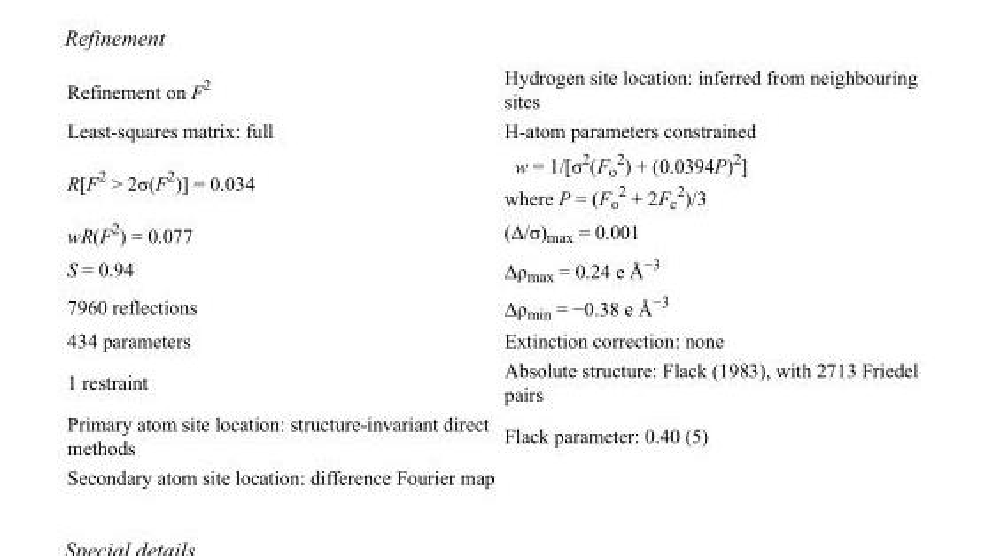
<table><tbody><tr><td>Refinement on F<sup>2</sup></td><td>Hydrogen site location: inferred from neighbouring sites</td></tr><tr><td>Least-squares matrix: full</td><td>H-atom parameters constrained</td></tr><tr><td>R[F<sup>2</sup> &gt; 2σ(F<sup>2</sup>)] = 0.034</td><td>w = 1/[σ<sup>2</sup>(F<sub>o</sub> <sup>2</sup>) + (0.0394P)<sup>2</sup>] where P = (F<sub>o</sub> <sup>2</sup> + 2F<sub>c</sub> <sup>2</sup>)/3</td></tr><tr><td>wR(F<sup>2</sup>) = 0.077</td><td>(Δ/σ)<sub>max</sub> = 0.001</td></tr><tr><td>S = 0.94</td><td>Δρ<sub>max</sub> = 0.24 e Å<sup>−3</sup></td></tr><tr><td>7960 reflections</td><td>Δρ<sub>min</sub> = −0.38 e Å<sup>−3</sup></td></tr><tr><td>434 parameters</td><td>Extinction correction: none</td></tr><tr><td>1 restraint</td><td>Absolute structure: Flack (1983), with 2713 Friedel pairs</td></tr><tr><td>Primary atom site location: structure-invariant direct methods</td><td>Flack parameter: 0.40 (5)</td></tr><tr><td>Secondary atom site location: difference Fourier map</td><td></td></tr></tbody></table>